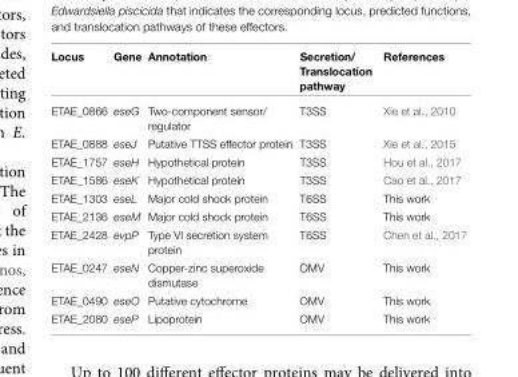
<table><thead><tr><td>Locus</td><td>Gene</td><td>Annotation</td><td>Secretion/ Translocation pathway</td><td>References</td></tr></thead><tbody><tr><td>ETAE_0866</td><td>eseG</td><td>Two-component sensor/ regulator</td><td>T3SS</td><td>Xie et al., 2010</td></tr><tr><td>ETAE_0888</td><td>eseJ</td><td>Putative TTSS effector protein</td><td>T3SS</td><td>Xie et al., 2015</td></tr><tr><td>ETAE_1757</td><td>eseH</td><td>Hypothetical protein</td><td>T3SS</td><td>Hou et al., 2017</td></tr><tr><td>ETAE_1586</td><td>eseK</td><td>Hypothetical protein</td><td>T3SS</td><td>Cao et al., 2017</td></tr><tr><td>ETAE_1303</td><td>eseL</td><td>Major cold shock protein</td><td>T6SS</td><td>This work</td></tr><tr><td>ETAE_2136</td><td>eseM</td><td>Major cold shock protein</td><td>T6SS</td><td>This work</td></tr><tr><td>ETAE_2428</td><td>evpP</td><td>Type VI secretion system protein</td><td>T6SS</td><td>Chen et al., 2017</td></tr><tr><td>ETAE_0247</td><td>eseN</td><td>Copper-zinc superoxide dismutase</td><td>OMV</td><td>This work</td></tr><tr><td>ETAE_0490</td><td>eseO</td><td>Putative cytochrome</td><td>OMV</td><td>This work</td></tr><tr><td>ETAE_2080</td><td>eseP</td><td>Lipoprotein</td><td>OMV</td><td>This work</td></tr></tbody></table>